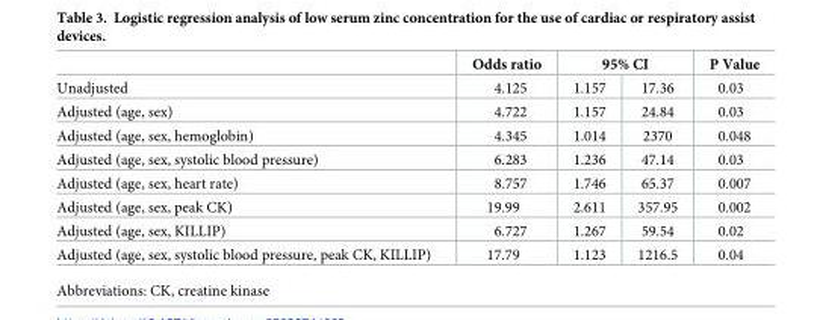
<table><thead><tr><td rowspan="2">Unadjusted</td><td rowspan="2">Odds ratio 4.125</td><td colspan="2">95% CI</td><td rowspan="2">P Value 0.03</td></tr><tr><td>1.157</td><td>17.36</td></tr></thead><tbody><tr><td>Adjusted (age, sex)</td><td>4.722</td><td>1.157</td><td>24.84</td><td>0.03</td></tr><tr><td>Adjusted (age, sex, hemoglobin)</td><td>4.345</td><td>1.014</td><td>2370</td><td>0.048</td></tr><tr><td>Adjusted (age, sex, systolic blood pressure)</td><td>6.283</td><td>1.236</td><td>47.14</td><td>0.03</td></tr><tr><td>Adjusted (age, sex, heart rate)</td><td>8.757</td><td>1.746</td><td>65.37</td><td>0.007</td></tr><tr><td>Adjusted (age, sex, peak CK)</td><td>19.99</td><td>2.611</td><td>357.95</td><td>0.002</td></tr><tr><td>Adjusted (age, sex, KILLIP)</td><td>6.727</td><td>1.267</td><td>59.54</td><td>0.02</td></tr><tr><td>Adjusted (age, sex, systolic blood pressure, peak CK, KILLIP)</td><td>17.79</td><td>1.123</td><td>1216.5</td><td>0.04</td></tr></tbody></table>